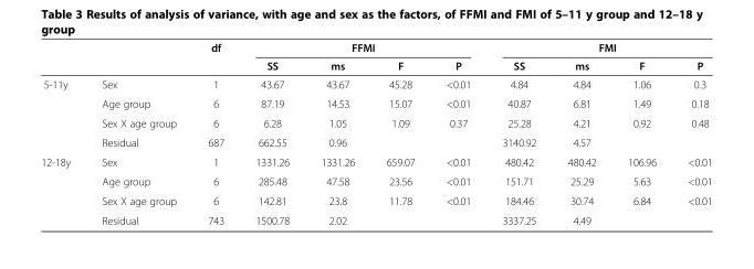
<table><thead><tr><td rowspan="2"></td><td rowspan="2"></td><td rowspan="2">df</td><td colspan="4">FFMI</td><td colspan="4">FMI</td></tr><tr><td>SS</td><td>ms</td><td>F</td><td>P</td><td>SS</td><td>ms</td><td>F</td><td>P</td></tr></thead><tbody><tr><td rowspan="4">5-11y</td><td>Sex</td><td>1</td><td>43.67</td><td>43.67</td><td>45.28</td><td>&lt;0.01</td><td>4.84</td><td>4.84</td><td>1.06</td><td>0.3</td></tr><tr><td>Age group</td><td>6</td><td>87.19</td><td>14.53</td><td>15.07</td><td>&lt;0.01</td><td>40.87</td><td>6.81</td><td>1.49</td><td>0.18</td></tr><tr><td>Sex X age group</td><td>6</td><td>6.28</td><td>1.05</td><td>1.09</td><td>0.37</td><td>25.28</td><td>4.21</td><td>0.92</td><td>0.48</td></tr><tr><td>Residual</td><td>687</td><td>662.55</td><td>0.96</td><td></td><td></td><td>3140.92</td><td>4.57</td><td></td><td></td></tr><tr><td rowspan="4">12-18y</td><td>Sex</td><td>1</td><td>1331.26</td><td>1331.26</td><td>659.07</td><td>&lt;0.01</td><td>480.42</td><td>480.42</td><td>106.96</td><td>&lt;0.01</td></tr><tr><td>Age group</td><td>6</td><td>285.48</td><td>47.58</td><td>23.56</td><td>&lt;0.01</td><td>151.71</td><td>25.29</td><td>5.63</td><td>&lt;0.01</td></tr><tr><td>Sex X age group</td><td>6</td><td>142.81</td><td>23.8</td><td>11.78</td><td>&lt;0.01</td><td>184.46</td><td>30.74</td><td>6.84</td><td>&lt;0.01</td></tr><tr><td>Residual</td><td>743</td><td>1500.78</td><td>2.02</td><td></td><td></td><td>3337.25</td><td>4.49</td><td></td><td></td></tr></tbody></table>